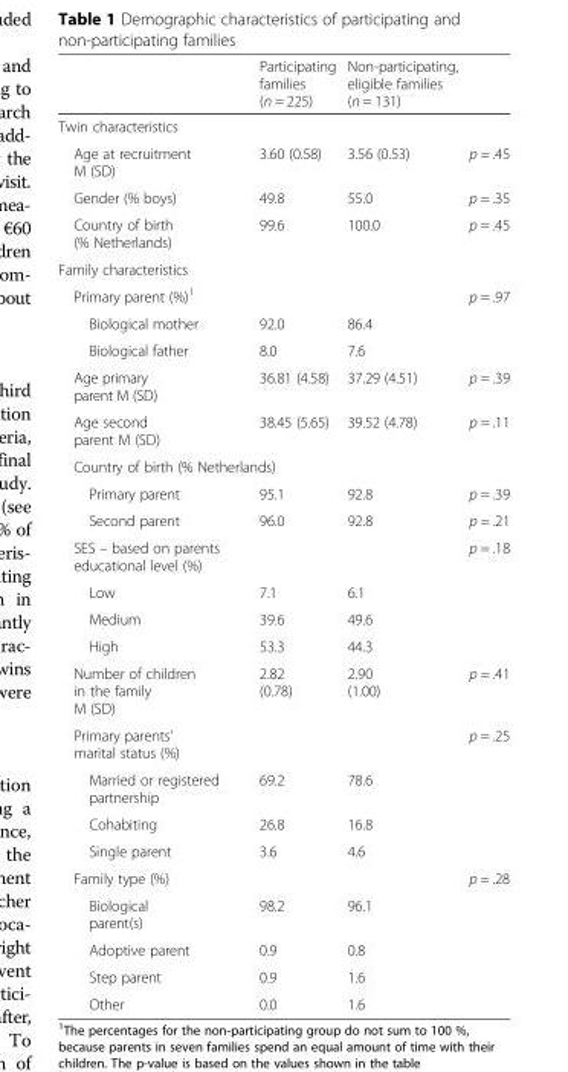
<table><thead><tr><td></td><td>Participating families (n = 225)</td><td>Non-participating, eligible families (n = 131)</td><td></td></tr></thead><tbody><tr><td colspan="4">Twin characteristics</td></tr><tr><td>Age at recruitment M (SD)</td><td>3.60 (0.58)</td><td>3.56 (0.53)</td><td>p = .45</td></tr><tr><td>Gender (% boys)</td><td>49.8</td><td>55.0</td><td>p = .35</td></tr><tr><td>Country of birth (% Netherlands)</td><td>99.6</td><td>100.0</td><td>p = .45</td></tr><tr><td colspan="4">Family characteristics</td></tr><tr><td>Primary parent (%)<sup>1</sup></td><td></td><td></td><td>p = .97</td></tr><tr><td>Biological mother</td><td>92.0</td><td>86.4</td><td></td></tr><tr><td>Biological father</td><td>8.0</td><td>7.6</td><td></td></tr><tr><td>Age primary parent M (SD)</td><td>36.81 (4.58)</td><td>37.29 (4.51)</td><td>p = .39</td></tr><tr><td>Age second parent M (SD)</td><td>38.45 (5.65)</td><td>39.52 (4.78)</td><td>p = .11</td></tr><tr><td colspan="4">Country of birth (% Netherlands)</td></tr><tr><td>Primary parent</td><td>95.1</td><td>92.8</td><td>p = .39</td></tr><tr><td>Second parent</td><td>96.0</td><td>92.8</td><td>p = .21</td></tr><tr><td>SES – based on parents educational level (%)</td><td></td><td></td><td>p = .18</td></tr><tr><td>Low</td><td>7.1</td><td>6.1</td><td></td></tr><tr><td>Medium</td><td>39.6</td><td>49.6</td><td></td></tr><tr><td>High</td><td>53.3</td><td>44.3</td><td></td></tr><tr><td>Number of children in the family M (SD)</td><td>2.82 (0.78)</td><td>2.90 (1.00)</td><td>p = .41</td></tr><tr><td>Primary parents’ marital status (%)</td><td></td><td></td><td>p = .25</td></tr><tr><td>Married or registered partnership</td><td>69.2</td><td>78.6</td><td></td></tr><tr><td>Cohabiting</td><td>26.8</td><td>16.8</td><td></td></tr><tr><td>Single parent</td><td>3.6</td><td>4.6</td><td></td></tr><tr><td>Family type (%)</td><td></td><td></td><td>p = .28</td></tr><tr><td>Biological parent(s)</td><td>98.2</td><td>96.1</td><td></td></tr><tr><td>Adoptive parent</td><td>0.9</td><td>0.8</td><td></td></tr><tr><td>Step parent</td><td>0.9</td><td>1.6</td><td></td></tr><tr><td>Other</td><td>0.0</td><td>1.6</td><td></td></tr></tbody></table>